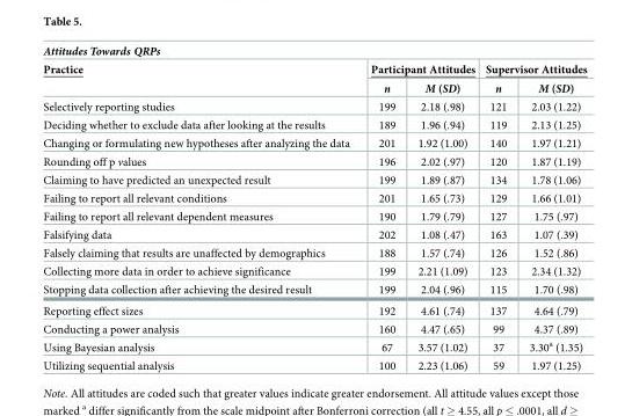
<table><thead><tr><td colspan="5">Attitudes Towards QRPs</td></tr><tr><td rowspan="2">Practice</td><td colspan="2">Participant Attitudes</td><td colspan="2">Supervisor Attitudes</td></tr><tr><td>n</td><td>M (SD)</td><td>n</td><td>M (SD)</td></tr></thead><tbody><tr><td>Selectively reporting studies</td><td>199</td><td>2.18 (.98)</td><td>121</td><td>2.03 (1.22)</td></tr><tr><td>Deciding whether to exclude data after looking at the results</td><td>189</td><td>1.96 (.94)</td><td>119</td><td>2.13 (1.25)</td></tr><tr><td>Changing or formulating new hypotheses after analyzing the data</td><td>201</td><td>1.92 (1.00)</td><td>140</td><td>1.97 (1.21)</td></tr><tr><td>Rounding off p values</td><td>196</td><td>2.02 (.97)</td><td>120</td><td>1.87 (1.19)</td></tr><tr><td>Claiming to have predicted an unexpected result</td><td>199</td><td>1.89 (.87)</td><td>134</td><td>1.78 (1.06)</td></tr><tr><td>Failing to report all relevant conditions</td><td>201</td><td>1.65 (.73)</td><td>129</td><td>1.66 (1.01)</td></tr><tr><td>Failing to report all relevant dependent measures</td><td>190</td><td>1.79 (.79)</td><td>127</td><td>1.75 (.97)</td></tr><tr><td>Falsifying data</td><td>202</td><td>1.08 (.47)</td><td>163</td><td>1.07 (.39)</td></tr><tr><td>Falsely claiming that results are unaffected by demographics</td><td>188</td><td>1.57 (.74)</td><td>126</td><td>1.52 (.86)</td></tr><tr><td>Collecting more data in order to achieve significance</td><td>199</td><td>2.21 (1.09)</td><td>123</td><td>2.34 (1.32)</td></tr><tr><td>Stopping data collection after achieving the desired result</td><td>199</td><td>2.04 (.96)</td><td>115</td><td>1.70 (.98)</td></tr><tr><td>Reporting effect sizes</td><td>192</td><td>4.61 (.74)</td><td>137</td><td>4.64 (.79)</td></tr><tr><td>Conducting a power analysis</td><td>160</td><td>4.47 (.65)</td><td>99</td><td>4.37 (.89)</td></tr><tr><td>Using Bayesian analysis</td><td>67</td><td>3.57 (1.02)</td><td>37</td><td>3.30<sup>a</sup> (1.35)</td></tr><tr><td>Utilizing sequential analysis</td><td>100</td><td>2.23 (1.06)</td><td>59</td><td>1.97 (1.25)</td></tr></tbody></table>